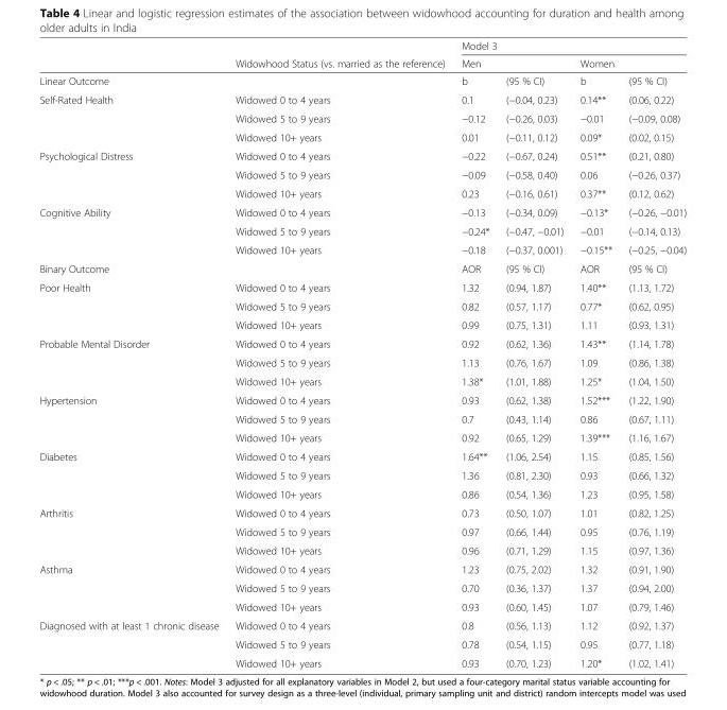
<table><thead><tr><td rowspan="3">Linear Outcome</td><td rowspan="3">Widowhood Status (vs. married as the reference)</td><td colspan="4">Model 3</td></tr><tr><td colspan="2">Men</td><td colspan="2">Women</td></tr><tr><td>b</td><td>(95 % CI)</td><td>b</td><td>(95 % CI)</td></tr></thead><tbody><tr><td rowspan="3">Self-Rated Health</td><td>Widowed 0 to 4 years</td><td>0.1</td><td>(−0.04, 0.23)</td><td>0.14**</td><td>(0.06, 0.22)</td></tr><tr><td>Widowed 5 to 9 years</td><td>−0.12</td><td>(−0.26, 0.03)</td><td>−0.01</td><td>(−0.09, 0.08)</td></tr><tr><td>Widowed 10+ years</td><td>0.01</td><td>(−0.11, 0.12)</td><td>0.09*</td><td>(0.02, 0.15)</td></tr><tr><td rowspan="3">Psychological Distress</td><td>Widowed 0 to 4 years</td><td>−0.22</td><td>(−0.67, 0.24)</td><td>0.51**</td><td>(0.21, 0.80)</td></tr><tr><td>Widowed 5 to 9 years</td><td>−0.09</td><td>(−0.58, 0.40)</td><td>0.06</td><td>(−0.26, 0.37)</td></tr><tr><td>Widowed 10+ years</td><td>0.23</td><td>(−0.16, 0.61)</td><td>0.37**</td><td>(0.12, 0.62)</td></tr><tr><td rowspan="3">Cognitive Ability</td><td>Widowed 0 to 4 years</td><td>−0.13</td><td>(−0.34, 0.09)</td><td>−0.13*</td><td>(−0.26, −0.01)</td></tr><tr><td>Widowed 5 to 9 years</td><td>−0.24*</td><td>(−0.47, −0.01)</td><td>−0.01</td><td>(−0.14, 0.13)</td></tr><tr><td>Widowed 10+ years</td><td>−0.18</td><td>(−0.37, 0.001)</td><td>−0.15**</td><td>(−0.25, −0.04)</td></tr><tr><td>Binary Outcome</td><td></td><td>AOR</td><td>(95 % CI)</td><td>AOR</td><td>(95 % CI)</td></tr><tr><td rowspan="3">Poor Health</td><td>Widowed 0 to 4 years</td><td>1.32</td><td>(0.94, 1.87)</td><td>1.40**</td><td>(1.13, 1.72)</td></tr><tr><td>Widowed 5 to 9 years</td><td>0.82</td><td>(0.57, 1.17)</td><td>0.77*</td><td>(0.62, 0.95)</td></tr><tr><td>Widowed 10+ years</td><td>0.99</td><td>(0.75, 1.31)</td><td>1.11</td><td>(0.93, 1.31)</td></tr><tr><td rowspan="3">Probable Mental Disorder</td><td>Widowed 0 to 4 years</td><td>0.92</td><td>(0.62, 1.36)</td><td>1.43**</td><td>(1.14, 1.78)</td></tr><tr><td>Widowed 5 to 9 years</td><td>1.13</td><td>(0.76, 1.67)</td><td>1.09</td><td>(0.86, 1.38)</td></tr><tr><td>Widowed 10+ years</td><td>1.38*</td><td>(1.01, 1.88)</td><td>1.25*</td><td>(1.04, 1.50)</td></tr><tr><td rowspan="3">Hypertension</td><td>Widowed 0 to 4 years</td><td>0.93</td><td>(0.62, 1.38)</td><td>1.52***</td><td>(1.22, 1.90)</td></tr><tr><td>Widowed 5 to 9 years</td><td>0.7</td><td>(0.43, 1.14)</td><td>0.86</td><td>(0.67, 1.11)</td></tr><tr><td>Widowed 10+ years</td><td>0.92</td><td>(0.65, 1.29)</td><td>1.39***</td><td>(1.16, 1.67)</td></tr><tr><td rowspan="3">Diabetes</td><td>Widowed 0 to 4 years</td><td>1.64**</td><td>(1.06, 2.54)</td><td>1.15</td><td>(0.85, 1.56)</td></tr><tr><td>Widowed 5 to 9 years</td><td>1.36</td><td>(0.81, 2.30)</td><td>0.93</td><td>(0.66, 1.32)</td></tr><tr><td>Widowed 10+ years</td><td>0.86</td><td>(0.54, 1.36)</td><td>1.23</td><td>(0.95, 1.58)</td></tr><tr><td rowspan="3">Arthritis</td><td>Widowed 0 to 4 years</td><td>0.73</td><td>(0.50, 1.07)</td><td>1.01</td><td>(0.82, 1.25)</td></tr><tr><td>Widowed 5 to 9 years</td><td>0.97</td><td>(0.66, 1.44)</td><td>0.95</td><td>(0.76, 1.19)</td></tr><tr><td>Widowed 10+ years</td><td>0.96</td><td>(0.71, 1.29)</td><td>1.15</td><td>(0.97, 1.36)</td></tr><tr><td rowspan="3">Asthma</td><td>Widowed 0 to 4 years</td><td>1.23</td><td>(0.75, 2.02)</td><td>1.32</td><td>(0.91, 1.90)</td></tr><tr><td>Widowed 5 to 9 years</td><td>0.70</td><td>(0.36, 1.37)</td><td>1.37</td><td>(0.94, 2.00)</td></tr><tr><td>Widowed 10+ years</td><td>0.93</td><td>(0.60, 1.45)</td><td>1.07</td><td>(0.79, 1.46)</td></tr><tr><td rowspan="3">Diagnosed with at least 1 chronic disease</td><td>Widowed 0 to 4 years</td><td>0.8</td><td>(0.56, 1.13)</td><td>1.12</td><td>(0.92, 1.37)</td></tr><tr><td>Widowed 5 to 9 years</td><td>0.78</td><td>(0.54, 1.15)</td><td>0.95</td><td>(0.77, 1.18)</td></tr><tr><td>Widowed 10+ years</td><td>0.93</td><td>(0.70, 1.23)</td><td>1.20*</td><td>(1.02, 1.41)</td></tr></tbody></table>